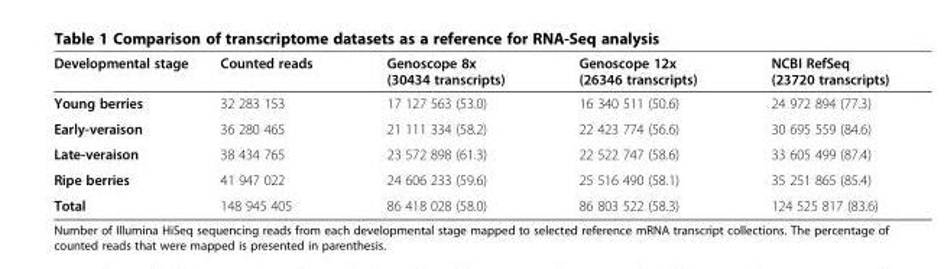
<table><thead><tr><td>Developmental stage</td><td>Counted reads</td><td>Genoscope 8x (30434 transcripts)</td><td>Genoscope 12x (26346 transcripts)</td><td>NCBI RefSeq (23720 transcripts)</td></tr></thead><tbody><tr><td>Young berries</td><td>32 283 153</td><td>17 127 563 (53.0)</td><td>16 340 511 (50.6)</td><td>24 972 894 (77.3)</td></tr><tr><td>Early-veraison</td><td>36 280 465</td><td>21 111 334 (58.2)</td><td>22 423 774 (56.6)</td><td>30 695 559 (84.6)</td></tr><tr><td>Late-veraison</td><td>38 434 765</td><td>23 572 898 (61.3)</td><td>22 522 747 (58.6)</td><td>33 605 499 (87.4)</td></tr><tr><td>Ripe berries</td><td>41 947 022</td><td>24 606 233 (59.6)</td><td>25 516 490 (58.1)</td><td>35 251 865 (85.4)</td></tr><tr><td>Total</td><td>148 945 405</td><td>86 418 028 (58.0)</td><td>86 803 522 (58.3)</td><td>124 525 817 (83.6)</td></tr></tbody></table>